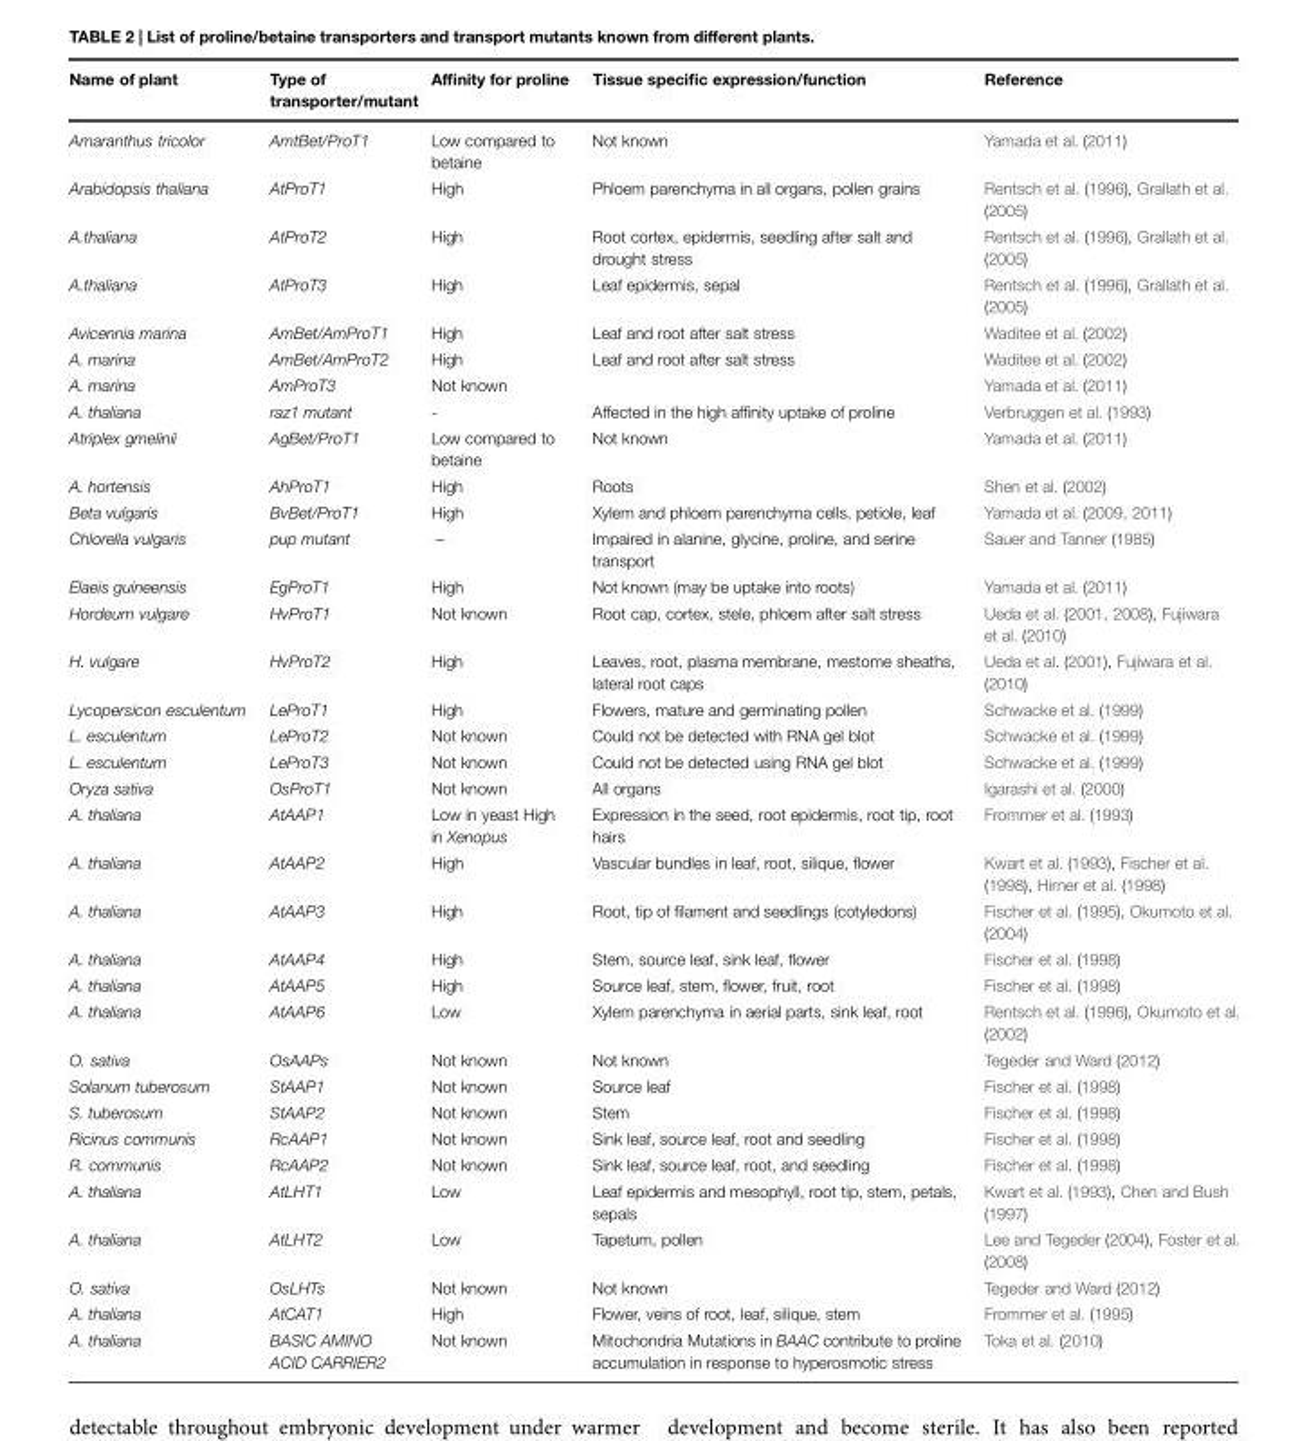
<table><thead><tr><td>Name of plant</td><td>Type of transporter/mutant</td><td>Affinity for proline</td><td>Tissue specific expression/function</td><td>Reference</td></tr></thead><tbody><tr><td>Amaranthus tricolor</td><td>AmtBet/ProT1</td><td>Low compared to betaine</td><td>Not known</td><td>Yamada et al. (2011)</td></tr><tr><td>Arabidopsis thaliana</td><td>AtProT1</td><td>High</td><td>Phloem parenchyma in all organs, pollen grains</td><td>Rentsch et al. (1996), Grallath et al. (2005)</td></tr><tr><td>A.thaliana</td><td>AtProT2</td><td>High</td><td>Root cortex, epidermis, seedling after salt and drought stress</td><td>Rentsch et al. (1996), Grallath et al. (2005)</td></tr><tr><td>A.thaliana</td><td>AtProT3</td><td>High</td><td>Leaf epidermis, sepal</td><td>Rentsch et al. (1996), Grallath et al. (2005)</td></tr><tr><td>Avicennia marina</td><td>AmBet/AmProT1</td><td>High</td><td>Leaf and root after salt stress</td><td>Waditee et al. (2002)</td></tr><tr><td>A. marina</td><td>AmBet/AmProT2</td><td>High</td><td>Leaf and root after salt stress</td><td>Waditee et al. (2002)</td></tr><tr><td>A. marina</td><td>AmProT3</td><td>Not known</td><td></td><td>Yamada et al. (2011)</td></tr><tr><td>A. thaliana</td><td>raz1 mutant</td><td>-</td><td>Affected in the high affinity uptake of proline</td><td>Verbruggen et al. (1993)</td></tr><tr><td>Atriplex gmelinii</td><td>AgBet/ProT1</td><td>Low compared to betaine</td><td>Not known</td><td>Yamada et al. (2011)</td></tr><tr><td>A. hortensis</td><td>AhProT1</td><td>High</td><td>Roots</td><td>Shen et al. (2002)</td></tr><tr><td>Beta vulgaris</td><td>BvBet/ProT1</td><td>High</td><td>Xylem and phloem parenchyma cells, petiole, leaf</td><td>Yamada et al. (2009, 2011)</td></tr><tr><td>Chlorella vulgaris</td><td>pup mutant</td><td>–</td><td>Impaired in alanine, glycine, proline, and serine transport</td><td>Sauer and Tanner (1985)</td></tr><tr><td>Elaeis guineensis</td><td>EgProT1</td><td>High</td><td>Not known (may be uptake into roots)</td><td>Yamada et al. (2011)</td></tr><tr><td>Hordeum vulgare</td><td>HvProT1</td><td>Not known</td><td>Root cap, cortex, stele, phloem after salt stress</td><td>Ueda et al. (2001, 2008), Fujiwara et al. (2010)</td></tr><tr><td>H. vulgare</td><td>HvProT2</td><td>High</td><td>Leaves, root, plasma membrane, mestome sheaths, lateral root caps</td><td>Ueda et al. (2001), Fujiwara et al. (2010)</td></tr><tr><td>Lycopersicon esculentum</td><td>LeProT1</td><td>High</td><td>Flowers, mature and germinating pollen</td><td>Schwacke et al. (1999)</td></tr><tr><td>L. esculentum</td><td>LeProT2</td><td>Not known</td><td>Could not be detected with RNA gel blot</td><td>Schwacke et al. (1999)</td></tr><tr><td>L. esculentum</td><td>LeProT3</td><td>Not known</td><td>Could not be detected using RNA gel blot</td><td>Schwacke et al. (1999)</td></tr><tr><td>Oryza sativa</td><td>OsProT1</td><td>Not known</td><td>All organs</td><td>Igarashi et al. (2000)</td></tr><tr><td>A. thaliana</td><td>AtAAP1</td><td>Low in yeast High in Xenopus</td><td>Expression in the seed, root epidermis, root tip, root hairs</td><td>Frommer et al. (1993)</td></tr><tr><td>A. thaliana</td><td>AtAAP2</td><td>High</td><td>Vascular bundles in leaf, root, silique, flower</td><td>Kwart et al. (1993), Fischer et al. (1998), Hirner et al. (1998)</td></tr><tr><td>A. thaliana</td><td>AtAAP3</td><td>High</td><td>Root, tip of filament and seedlings (cotyledons)</td><td>Fischer et al. (1995), Okumoto et al. (2004)</td></tr><tr><td>A. thaliana</td><td>AtAAP4</td><td>High</td><td>Stem, source leaf, sink leaf, flower</td><td>Fischer et al. (1998)</td></tr><tr><td>A. thaliana</td><td>AtAAP5</td><td>High</td><td>Source leaf, stem, flower, fruit, root</td><td>Fischer et al. (1998)</td></tr><tr><td>A. thaliana</td><td>AtAAP6</td><td>Low</td><td>Xylem parenchyma in aerial parts, sink leaf, root</td><td>Rentsch et al. (1996), Okumoto et al. (2002)</td></tr><tr><td>O. sativa</td><td>OsAAPs</td><td>Not known</td><td>Not known</td><td>Tegeder and Ward (2012)</td></tr><tr><td>Solanum tuberosum</td><td>StAAP1</td><td>Not known</td><td>Source leaf</td><td>Fischer et al. (1998)</td></tr><tr><td>S. tuberosum</td><td>StAAP2</td><td>Not known</td><td>Stem</td><td>Fischer et al. (1998)</td></tr><tr><td>Ricinus communis</td><td>RcAAP1</td><td>Not known</td><td>Sink leaf, source leaf, root and seedling</td><td>Fischer et al. (1998)</td></tr><tr><td>R. communis</td><td>RcAAP2</td><td>Not known</td><td>Sink leaf, source leaf, root, and seedling</td><td>Fischer et al. (1998)</td></tr><tr><td>A. thaliana</td><td>AtLHT1</td><td>Low</td><td>Leaf epidermis and mesophyll, root tip, stem, petals, sepals</td><td>Kwart et al. (1993), Chen and Bush (1997)</td></tr><tr><td>A. thaliana</td><td>AtLHT2</td><td>Low</td><td>Tapetum, pollen</td><td>Lee and Tegeder (2004), Foster et al. (2008)</td></tr><tr><td>O. sativa</td><td>OsLHTs</td><td>Not known</td><td>Not known</td><td>Tegeder and Ward (2012)</td></tr><tr><td>A. thaliana</td><td>AtCAT1</td><td>High</td><td>Flower, veins of root, leaf, silique, stem</td><td>Frommer et al. (1995)</td></tr><tr><td>A. thaliana</td><td>BASIC AMINO ACID CARRIER2</td><td>Not known</td><td>Mitochondria Mutations in BAAC contribute to proline accumulation in response to hyperosmotic stress</td><td>Toka et al. (2010)</td></tr></tbody></table>